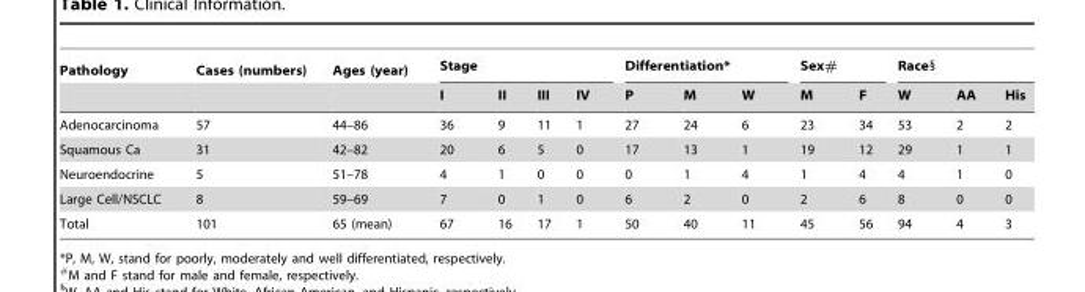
<table><thead><tr><td rowspan="2">Pathology</td><td rowspan="2">Cases (numbers)</td><td rowspan="2">Ages (year)</td><td colspan="4">Stage</td><td colspan="3">Differentiation*</td><td colspan="2">Sex#</td><td colspan="3">Race§</td></tr><tr><td>I</td><td>II</td><td>III</td><td>IV</td><td>P</td><td>M</td><td>W</td><td>M</td><td>F</td><td>W</td><td>AA</td><td>His</td></tr></thead><tbody><tr><td>Adenocarcinoma</td><td>57</td><td>44–86</td><td>36</td><td>9</td><td>11</td><td>1</td><td>27</td><td>24</td><td>6</td><td>23</td><td>34</td><td>53</td><td>2</td><td>2</td></tr><tr><td>Squamous Ca</td><td>31</td><td>42–82</td><td>20</td><td>6</td><td>5</td><td>0</td><td>17</td><td>13</td><td>1</td><td>19</td><td>12</td><td>29</td><td>1</td><td>1</td></tr><tr><td>Neuroendocrine</td><td>5</td><td>51–78</td><td>4</td><td>1</td><td>0</td><td>0</td><td>0</td><td>1</td><td>4</td><td>1</td><td>4</td><td>4</td><td>1</td><td>0</td></tr><tr><td>Large Cell/NSCLC</td><td>8</td><td>59–69</td><td>7</td><td>0</td><td>1</td><td>0</td><td>6</td><td>2</td><td>0</td><td>2</td><td>6</td><td>8</td><td>0</td><td>0</td></tr><tr><td>Total</td><td>101</td><td>65 (mean)</td><td>67</td><td>16</td><td>17</td><td>1</td><td>50</td><td>40</td><td>11</td><td>45</td><td>56</td><td>94</td><td>4</td><td>3</td></tr></tbody></table>